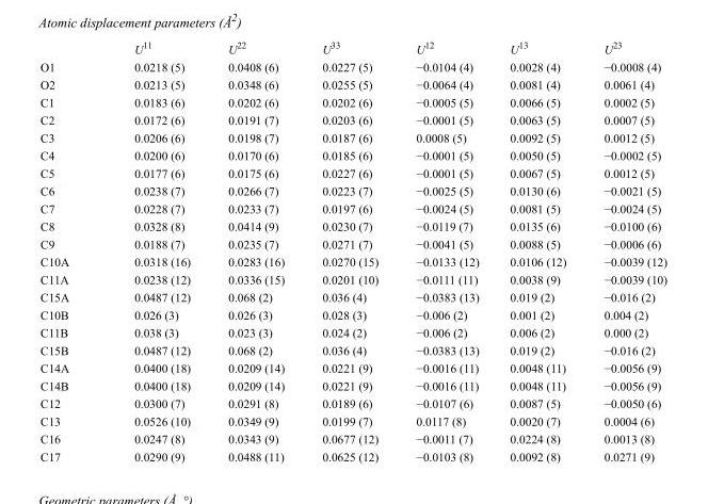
<table><thead><tr><td></td><td>U<sup>11</sup></td><td>U<sup>22</sup></td><td>U<sup>33</sup></td><td>U<sup>12</sup></td><td>U<sup>13</sup></td><td>U<sup>23</sup></td></tr></thead><tbody><tr><td>O1</td><td>0.0218 (5)</td><td>0.0408 (6)</td><td>0.0227 (5)</td><td>−0.0104 (4)</td><td>0.0028 (4)</td><td>−0.0008 (4)</td></tr><tr><td>O2</td><td>0.0213 (5)</td><td>0.0348 (6)</td><td>0.0255 (5)</td><td>−0.0064 (4)</td><td>0.0081 (4)</td><td>0.0061 (4)</td></tr><tr><td>C1</td><td>0.0183 (6)</td><td>0.0202 (6)</td><td>0.0202 (6)</td><td>−0.0005 (5)</td><td>0.0066 (5)</td><td>0.0002 (5)</td></tr><tr><td>C2</td><td>0.0172 (6)</td><td>0.0191 (7)</td><td>0.0203 (6)</td><td>−0.0001 (5)</td><td>0.0063 (5)</td><td>0.0007 (5)</td></tr><tr><td>C3</td><td>0.0206 (6)</td><td>0.0198 (7)</td><td>0.0187 (6)</td><td>0.0008 (5)</td><td>0.0092 (5)</td><td>0.0012 (5)</td></tr><tr><td>C4</td><td>0.0200 (6)</td><td>0.0170 (6)</td><td>0.0185 (6)</td><td>−0.0001 (5)</td><td>0.0050 (5)</td><td>−0.0002 (5)</td></tr><tr><td>C5</td><td>0.0177 (6)</td><td>0.0175 (6)</td><td>0.0227 (6)</td><td>−0.0001 (5)</td><td>0.0067 (5)</td><td>0.0012 (5)</td></tr><tr><td>C6</td><td>0.0238 (7)</td><td>0.0266 (7)</td><td>0.0223 (7)</td><td>−0.0025 (5)</td><td>0.0130 (6)</td><td>−0.0021 (5)</td></tr><tr><td>C7</td><td>0.0228 (7)</td><td>0.0233 (7)</td><td>0.0197 (6)</td><td>−0.0024 (5)</td><td>0.0081 (5)</td><td>−0.0024 (5)</td></tr><tr><td>C8</td><td>0.0328 (8)</td><td>0.0414 (9)</td><td>0.0230 (7)</td><td>−0.0119 (7)</td><td>0.0135 (6)</td><td>−0.0100 (6)</td></tr><tr><td>C9</td><td>0.0188 (7)</td><td>0.0235 (7)</td><td>0.0271 (7)</td><td>−0.0041 (5)</td><td>0.0088 (5)</td><td>−0.0006 (6)</td></tr><tr><td>C10A</td><td>0.0318 (16)</td><td>0.0283 (16)</td><td>0.0270 (15)</td><td>−0.0133 (12)</td><td>0.0106 (12)</td><td>−0.0039 (12)</td></tr><tr><td>C11A</td><td>0.0238 (12)</td><td>0.0336 (15)</td><td>0.0201 (10)</td><td>−0.0111 (11)</td><td>0.0038 (9)</td><td>−0.0039 (10)</td></tr><tr><td>C15A</td><td>0.0487 (12)</td><td>0.068 (2)</td><td>0.036 (4)</td><td>−0.0383 (13)</td><td>0.019 (2)</td><td>−0.016 (2)</td></tr><tr><td>C10B</td><td>0.026 (3)</td><td>0.026 (3)</td><td>0.028 (3)</td><td>−0.006 (2)</td><td>0.001 (2)</td><td>0.004 (2)</td></tr><tr><td>C11B</td><td>0.038 (3)</td><td>0.023 (3)</td><td>0.024 (2)</td><td>−0.006 (2)</td><td>0.006 (2)</td><td>0.000 (2)</td></tr><tr><td>C15B</td><td>0.0487 (12)</td><td>0.068 (2)</td><td>0.036 (4)</td><td>−0.0383 (13)</td><td>0.019 (2)</td><td>−0.016 (2)</td></tr><tr><td>C14A</td><td>0.0400 (18)</td><td>0.0209 (14)</td><td>0.0221 (9)</td><td>−0.0016 (11)</td><td>0.0048 (11)</td><td>−0.0056 (9)</td></tr><tr><td>C14B</td><td>0.0400 (18)</td><td>0.0209 (14)</td><td>0.0221 (9)</td><td>−0.0016 (11)</td><td>0.0048 (11)</td><td>−0.0056 (9)</td></tr><tr><td>C12</td><td>0.0300 (7)</td><td>0.0291 (8)</td><td>0.0189 (6)</td><td>−0.0107 (6)</td><td>0.0087 (5)</td><td>−0.0050 (6)</td></tr><tr><td>C13</td><td>0.0526 (10)</td><td>0.0349 (9)</td><td>0.0199 (7)</td><td>0.0117 (8)</td><td>0.0020 (7)</td><td>0.0004 (6)</td></tr><tr><td>C16</td><td>0.0247 (8)</td><td>0.0343 (9)</td><td>0.0677 (12)</td><td>−0.0011 (7)</td><td>0.0224 (8)</td><td>0.0013 (8)</td></tr><tr><td>C17</td><td>0.0290 (9)</td><td>0.0488 (11)</td><td>0.0625 (12)</td><td>−0.0103 (8)</td><td>0.0092 (8)</td><td>0.0271 (9)</td></tr></tbody></table>